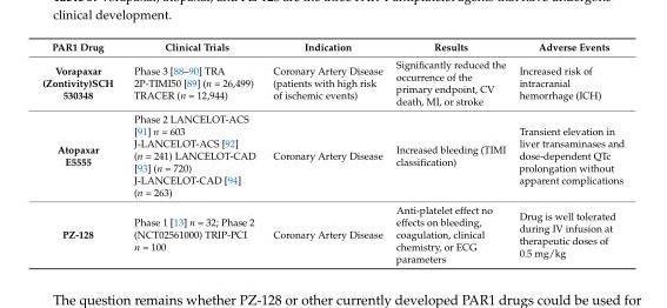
<table><thead><tr><td>PAR1 Drug</td><td>Clinical Trials</td><td>Indication</td><td>Results</td><td>Adverse Events</td></tr></thead><tbody><tr><td>Vorapaxar (Zontivity)SCH 530348</td><td>Phase 3 [88–90] TRA 2P-TIMI50 [89] (n = 26,499) TRACER (n = 12,944)</td><td>Coronary Artery Disease (patients with high risk of ischemic events)</td><td>Significantly reduced the occurrence of the primary endpoint, CV death, MI, or stroke</td><td>Increased risk of intracranial hemorrhage (ICH)</td></tr><tr><td>Atopaxar E5555</td><td>Phase 2 LANCELOT-ACS [91] n = 603 J-LANCELOT-ACS [92] (n = 241) LANCELOT-CAD [93] (n = 720) J-LANCELOT-CAD [94] (n = 263)</td><td>Coronary Artery Disease</td><td>Increased bleeding (TIMI classification)</td><td>Transient elevation in liver transaminases and dose-dependent QTc prolongation without apparent complications</td></tr><tr><td>PZ-128</td><td>Phase 1 [13] n = 32; Phase 2 (NCT02561000) TRIP-PCI n = 100</td><td>Coronary Artery Disease</td><td>Anti-platelet effect no effects on bleeding, coagulation, clinical chemistry, or ECG parameters</td><td>Drug is well tolerated during IV infusion at therapeutic doses of 0.5 mg/kg</td></tr></tbody></table>